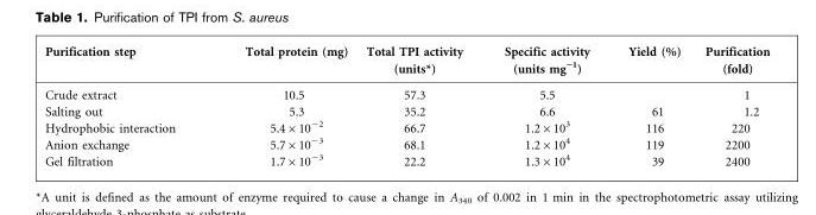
<table><thead><tr><td>Purification step</td><td>Total protein (mg)</td><td>Total TPI activity (units*)</td><td>Specific activity (units mg”1)</td><td>Yield (%)</td><td>Purification (fold)</td></tr></thead><tbody><tr><td>Crude extract</td><td>10.5</td><td>57.3</td><td>5.5</td><td></td><td>1</td></tr><tr><td>Salting out</td><td>5.3</td><td>35.2</td><td>6.6</td><td>61</td><td>1.2</td></tr><tr><td>Hydrophobic interaction</td><td>5.4×10<sup>−2</sup></td><td>66.7</td><td>1.2×10<sup>3</sup></td><td>116</td><td>220</td></tr><tr><td>Anion exchange</td><td>5.7×10<sup>−3</sup></td><td>68.1</td><td>1.2×10<sup>4</sup></td><td>119</td><td>2200</td></tr><tr><td>Gel filtration</td><td>1.7×10<sup>−3</sup></td><td>22.2</td><td>1.3×10<sup>4</sup></td><td>39</td><td>2400</td></tr></tbody></table>